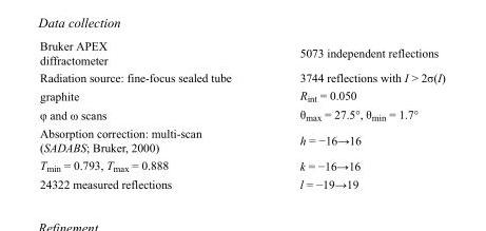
<table><tbody><tr><td>Bruker APEX diffractometer</td><td>5073 independent reflections</td></tr><tr><td>Radiation source: fine-focus sealed tube</td><td>3744 reflections with I &gt; 2σ(I)</td></tr><tr><td>graphite</td><td>R<sub>int</sub> = 0.050</td></tr><tr><td>φ and ω scans</td><td>θ<sub>max</sub> = 27.5°, θ<sub>min</sub> = 1.7°</td></tr><tr><td>Absorption correction: multi-scan (SADABS; Bruker, 2000)</td><td>h = −16→16</td></tr><tr><td>T<sub>min</sub> = 0.793, T<sub>max</sub> = 0.888</td><td>k = −16→16</td></tr><tr><td>24322 measured reflections</td><td>l = −19→19</td></tr></tbody></table>